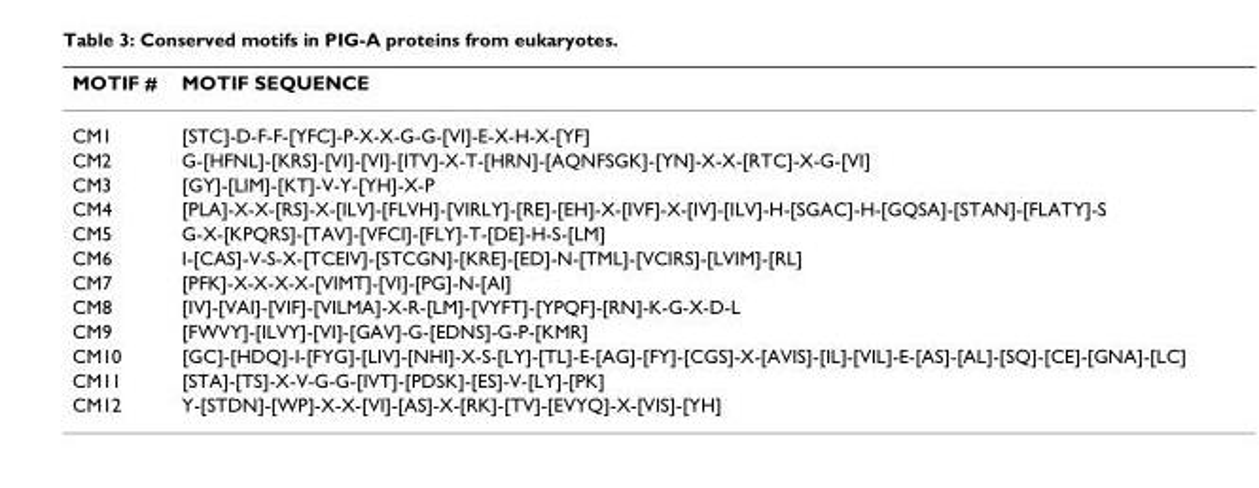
<table><thead><tr><td>MOTIF #</td><td>MOTIF SEQUENCE</td></tr></thead><tbody><tr><td>CM1</td><td>[STC]-D-F-F-[YFC]-P-X-X-G-G-[VI]-E-X-H-X-[YF]</td></tr><tr><td>CM2</td><td>G-[HFNL]-[KRS]-[VI]-[VI]-[ITV]-X-T-[HRN]-[AQNFSGK]-[YN]-X-X-[RTC]-X-G-[VI]</td></tr><tr><td>CM3</td><td>[GY]-[LIM]-[KT]-V-Y-[YH]-X-P</td></tr><tr><td>CM4</td><td>[PLA]-X-X-[RS]-X-[ILV]-[FLVH]-[VIRLY]-[RE]-[EH]-X-[IVF]-X-[IV]-[ILV]-H-[SGAC]-H-[GQSA]-[STAN]-[FLATY]-S</td></tr><tr><td>CM5</td><td>G-X-[KPQRS]-[TAV]-[VFCI]-[FLY]-T-[DE]-H-S-[LM]</td></tr><tr><td>CM6</td><td>I-[CAS]-V-S-X-[TCEIV]-[STCGN]-[KRE]-[ED]-N-[TML]-[VCIRS]-[LVIM]-[RL]</td></tr><tr><td>CM7</td><td>[PFK]-X-X-X-X-[VIMT]-[VI]-[PG]-N-[AI]</td></tr><tr><td>CM8</td><td>[IV]-[VAI]-[VIF]-[VILMA]-X-R-[LM]-[VYFT]-[YPQF]-[RN]-K-G-X-D-L</td></tr><tr><td>CM9</td><td>[FWVY]-[ILVY]-[VI]-[GAV]-G-[EDNS]-G-P-[KMR]</td></tr><tr><td>CM10</td><td>[GC]-[HDQ]-I-[FYG]-[LIV]-[NHI]-X-S-[LY]-[TL]-E-[AG]-[FY]-[CGS]-X-[AVIS]-[IL]-[VIL]-E-[AS]-[AL]-[SQ]-[CE]-[GNA]-[LC]</td></tr><tr><td>CM11</td><td>[STA]-[TS]-X-V-G-G-[IVT]-[PDSK]-[ES]-V-[LY]-[PK]</td></tr><tr><td>CM12</td><td>Y-[STDN]-[WP]-X-X-[VI]-[AS]-X-[RK]-[TV]-[EVYQ]-X-[VIS]-[YH]</td></tr></tbody></table>